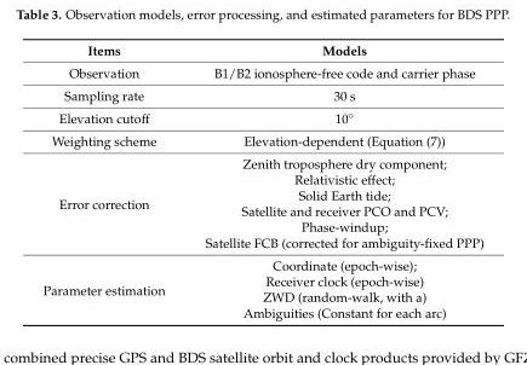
<table><thead><tr><td>Items</td><td>Models</td></tr></thead><tbody><tr><td>Observation</td><td>B1/B2 ionosphere-free code and carrier phase</td></tr><tr><td>Sampling rate</td><td>30 s</td></tr><tr><td>Elevation cutoff</td><td>10◦</td></tr><tr><td>Weighting scheme</td><td>Elevation-dependent (Equation (7))</td></tr><tr><td rowspan="6">Error correction</td><td>Zenith troposphere dry component;</td></tr><tr><td>Relativistic effect;</td></tr><tr><td>Solid Earth tide;</td></tr><tr><td>Satellite and receiver PCO and PCV;</td></tr><tr><td>Phase-windup;</td></tr><tr><td>Satellite FCB (corrected for ambiguity-fixed PPP)</td></tr><tr><td rowspan="4">Parameter estimation</td><td>Coordinate (epoch-wise);</td></tr><tr><td>Receiver clock (epoch-wise)</td></tr><tr><td>ZWD (random-walk, with a)</td></tr><tr><td>Ambiguities (Constant for each arc)</td></tr></tbody></table>